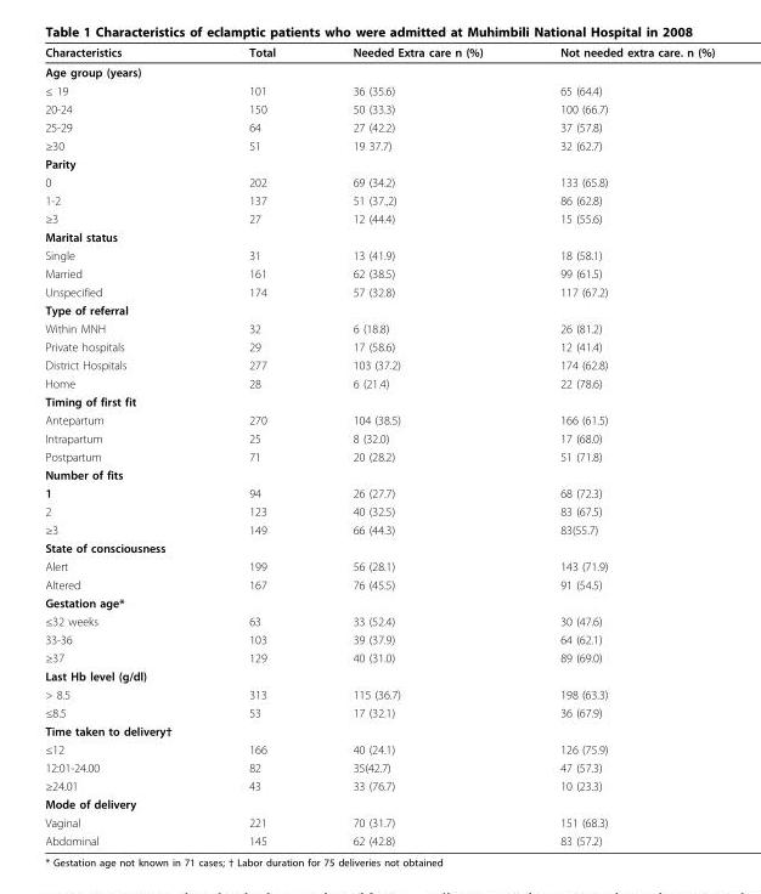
<table><thead><tr><td>Characteristics</td><td>Total</td><td>Needed Extra care n (%)</td><td>Not needed extra care. n (%)</td></tr></thead><tbody><tr><td colspan="4">Age group (years)</td></tr><tr><td>≤ 19</td><td>101</td><td>36 (35.6)</td><td>65 (64.4)</td></tr><tr><td>20-24</td><td>150</td><td>50 (33.3)</td><td>100 (66.7)</td></tr><tr><td>25-29</td><td>64</td><td>27 (42.2)</td><td>37 (57.8)</td></tr><tr><td>≥30</td><td>51</td><td>19 37.7)</td><td>32 (62.7)</td></tr><tr><td colspan="4">Parity</td></tr><tr><td>0</td><td>202</td><td>69 (34.2)</td><td>133 (65.8)</td></tr><tr><td>1-2</td><td>137</td><td>51 (37.,2)</td><td>86 (62.8)</td></tr><tr><td>≥3</td><td>27</td><td>12 (44.4)</td><td>15 (55.6)</td></tr><tr><td colspan="4">Marital status</td></tr><tr><td>Single</td><td>31</td><td>13 (41.9)</td><td>18 (58.1)</td></tr><tr><td>Married</td><td>161</td><td>62 (38.5)</td><td>99 (61.5)</td></tr><tr><td>Unspecified</td><td>174</td><td>57 (32.8)</td><td>117 (67.2)</td></tr><tr><td colspan="4">Type of referral</td></tr><tr><td>Within MNH</td><td>32</td><td>6 (18.8)</td><td>26 (81.2)</td></tr><tr><td>Private hospitals</td><td>29</td><td>17 (58.6)</td><td>12 (41.4)</td></tr><tr><td>District Hospitals</td><td>277</td><td>103 (37.2)</td><td>174 (62.8)</td></tr><tr><td>Home</td><td>28</td><td>6 (21.4)</td><td>22 (78.6)</td></tr><tr><td colspan="4">Timing of first fit</td></tr><tr><td>Antepartum</td><td>270</td><td>104 (38.5)</td><td>166 (61.5)</td></tr><tr><td>Intrapartum</td><td>25</td><td>8 (32.0)</td><td>17 (68.0)</td></tr><tr><td>Postpartum</td><td>71</td><td>20 (28.2)</td><td>51 (71.8)</td></tr><tr><td colspan="4">Number of fits</td></tr><tr><td>1</td><td>94</td><td>26 (27.7)</td><td>68 (72.3)</td></tr><tr><td>2</td><td>123</td><td>40 (32.5)</td><td>83 (67.5)</td></tr><tr><td>≥3</td><td>149</td><td>66 (44.3)</td><td>83(55.7)</td></tr><tr><td colspan="4">State of consciousness</td></tr><tr><td>Alert</td><td>199</td><td>56 (28.1)</td><td>143 (71.9)</td></tr><tr><td>Altered</td><td>167</td><td>76 (45.5)</td><td>91 (54.5)</td></tr><tr><td colspan="4">Gestation age*</td></tr><tr><td>≤32 weeks</td><td>63</td><td>33 (52.4)</td><td>30 (47.6)</td></tr><tr><td>33-36</td><td>103</td><td>39 (37.9)</td><td>64 (62.1)</td></tr><tr><td>≥37</td><td>129</td><td>40 (31.0)</td><td>89 (69.0)</td></tr><tr><td colspan="4">Last Hb level (g/dl)</td></tr><tr><td>&gt; 8.5</td><td>313</td><td>115 (36.7)</td><td>198 (63.3)</td></tr><tr><td>≤8.5</td><td>53</td><td>17 (32.1)</td><td>36 (67.9)</td></tr><tr><td colspan="4">Time taken to delivery†</td></tr><tr><td>≤12</td><td>166</td><td>40 (24.1)</td><td>126 (75.9)</td></tr><tr><td>12:01-24.00</td><td>82</td><td>35(42.7)</td><td>47 (57.3)</td></tr><tr><td>≥24.01</td><td>43</td><td>33 (76.7)</td><td>10 (23.3)</td></tr><tr><td colspan="4">Mode of delivery</td></tr><tr><td>Vaginal</td><td>221</td><td>70 (31.7)</td><td>151 (68.3)</td></tr><tr><td>Abdominal</td><td>145</td><td>62 (42.8)</td><td>83 (57.2)</td></tr></tbody></table>